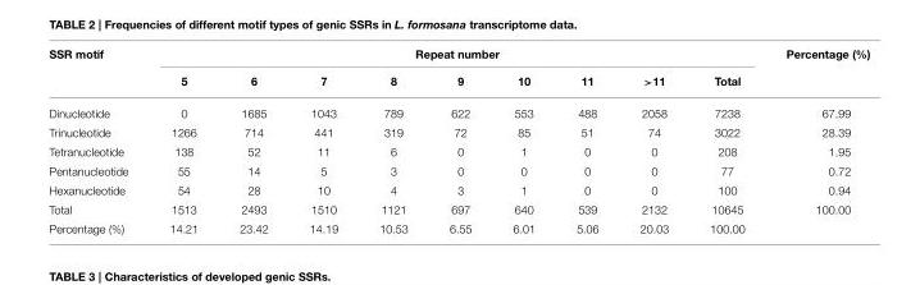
<table><thead><tr><td rowspan="2">SSR motif</td><td colspan="9">Repeat number</td><td rowspan="2">Percentage (%)</td></tr><tr><td>5</td><td>6</td><td>7</td><td>8</td><td>9</td><td>10</td><td>11</td><td>&gt;11</td><td>Total</td></tr></thead><tbody><tr><td>Dinucleotide</td><td>0</td><td>1685</td><td>1043</td><td>789</td><td>622</td><td>553</td><td>488</td><td>2058</td><td>7238</td><td>67.99</td></tr><tr><td>Trinucleotide</td><td>1266</td><td>714</td><td>441</td><td>319</td><td>72</td><td>85</td><td>51</td><td>74</td><td>3022</td><td>28.39</td></tr><tr><td>Tetranucleotide</td><td>138</td><td>52</td><td>11</td><td>6</td><td>0</td><td>1</td><td>0</td><td>0</td><td>208</td><td>1.95</td></tr><tr><td>Pentanucleotide</td><td>55</td><td>14</td><td>5</td><td>3</td><td>0</td><td>0</td><td>0</td><td>0</td><td>77</td><td>0.72</td></tr><tr><td>Hexanucleotide</td><td>54</td><td>28</td><td>10</td><td>4</td><td>3</td><td>1</td><td>0</td><td>0</td><td>100</td><td>0.94</td></tr><tr><td>Total</td><td>1513</td><td>2493</td><td>1510</td><td>1121</td><td>697</td><td>640</td><td>539</td><td>2132</td><td>10645</td><td>100.00</td></tr><tr><td>Percentage (%)</td><td>14.21</td><td>23.42</td><td>14.19</td><td>10.53</td><td>6.55</td><td>6.01</td><td>5.06</td><td>20.03</td><td>100.00</td><td></td></tr></tbody></table>